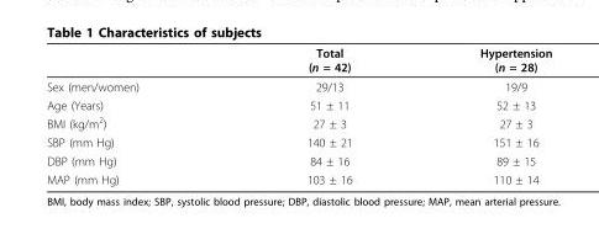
<table><thead><tr><td></td><td>Total (n = 42)</td><td>Hypertension (n = 28)</td></tr></thead><tbody><tr><td>Sex (men/women)</td><td>29/13</td><td>19/9</td></tr><tr><td>Age (Years)</td><td>51 ± 11</td><td>52 ± 13</td></tr><tr><td>BMI (kg/m<sup>2</sup>)</td><td>27 ± 3</td><td>27 ± 3</td></tr><tr><td>SBP (mm Hg)</td><td>140 ± 21</td><td>151 ± 16</td></tr><tr><td>DBP (mm Hg)</td><td>84 ± 16</td><td>89 ± 15</td></tr><tr><td>MAP (mm Hg)</td><td>103 ± 16</td><td>110 ± 14</td></tr></tbody></table>